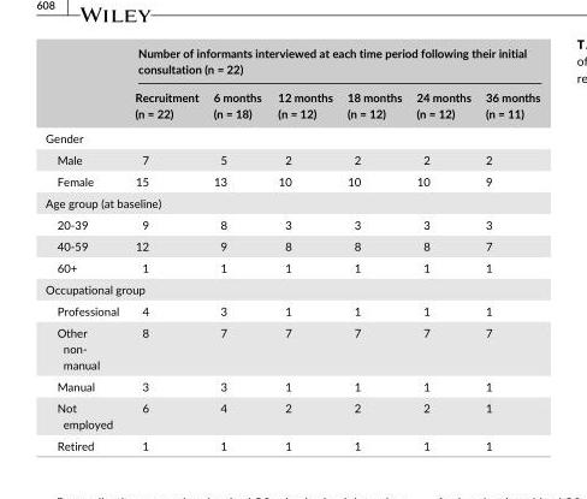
<table><thead><tr><td rowspan="2"></td><td colspan="6">Number of informants interviewed at each time period following their initial consultation (n = 22)</td></tr><tr><td>Recruitment (n = 22)</td><td>6 months (n = 18)</td><td>12 months (n = 12)</td><td>18 months (n = 12)</td><td>24 months (n = 12)</td><td>36 months (n = 11)</td></tr></thead><tbody><tr><td colspan="7">Gender</td></tr><tr><td>Male</td><td>7</td><td>5</td><td>2</td><td>2</td><td>2</td><td>2</td></tr><tr><td>Female</td><td>15</td><td>13</td><td>10</td><td>10</td><td>10</td><td>9</td></tr><tr><td colspan="7">Age group (at baseline)</td></tr><tr><td>20- 39</td><td>9</td><td>8</td><td>3</td><td>3</td><td>3</td><td>3</td></tr><tr><td>40- 59</td><td>12</td><td>9</td><td>8</td><td>8</td><td>8</td><td>7</td></tr><tr><td>60+</td><td>1</td><td>1</td><td>1</td><td>1</td><td>1</td><td>1</td></tr><tr><td colspan="7">Occupational group</td></tr><tr><td>Professional</td><td>4</td><td>3</td><td>1</td><td>1</td><td>1</td><td>1</td></tr><tr><td>Other non- manual</td><td>8</td><td>7</td><td>7</td><td>7</td><td>7</td><td>7</td></tr><tr><td>Manual</td><td>3</td><td>3</td><td>1</td><td>1</td><td>1</td><td>1</td></tr><tr><td>Not employed</td><td>6</td><td>4</td><td>2</td><td>2</td><td>2</td><td>1</td></tr><tr><td>Retired</td><td>1</td><td>1</td><td>1</td><td>1</td><td>1</td><td>1</td></tr></tbody></table>